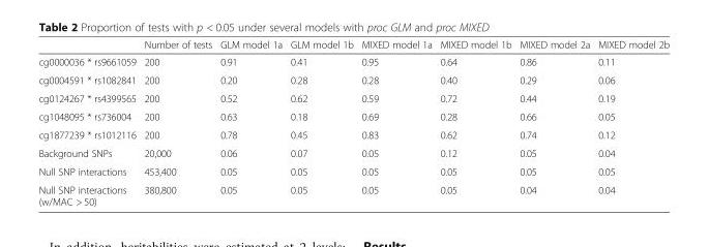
<table><thead><tr><td></td><td>Number of tests</td><td>GLM model 1a</td><td>GLM model 1b</td><td>MIXED model 1a</td><td>MIXED model 1b</td><td>MIXED model 2a</td><td>MIXED model 2b</td></tr></thead><tbody><tr><td>cg0000036 * rs9661059</td><td>200</td><td>0.91</td><td>0.41</td><td>0.95</td><td>0.64</td><td>0.86</td><td>0.11</td></tr><tr><td>cg0004591 * rs1082841</td><td>200</td><td>0.20</td><td>0.28</td><td>0.28</td><td>0.40</td><td>0.29</td><td>0.06</td></tr><tr><td>cg0124267 * rs4399565</td><td>200</td><td>0.52</td><td>0.62</td><td>0.59</td><td>0.72</td><td>0.44</td><td>0.19</td></tr><tr><td>cg1048095 * rs736004</td><td>200</td><td>0.63</td><td>0.18</td><td>0.69</td><td>0.28</td><td>0.66</td><td>0.05</td></tr><tr><td>cg1877239 * rs1012116</td><td>200</td><td>0.78</td><td>0.45</td><td>0.83</td><td>0.62</td><td>0.74</td><td>0.12</td></tr><tr><td>Background SNPs</td><td>20,000</td><td>0.06</td><td>0.07</td><td>0.05</td><td>0.12</td><td>0.05</td><td>0.04</td></tr><tr><td>Null SNP interactions</td><td>453,400</td><td>0.05</td><td>0.05</td><td>0.05</td><td>0.05</td><td>0.05</td><td>0.05</td></tr><tr><td>Null SNP interactions (w/MAC &gt; 50)</td><td>380,800</td><td>0.05</td><td>0.05</td><td>0.05</td><td>0.05</td><td>0.04</td><td>0.04</td></tr></tbody></table>